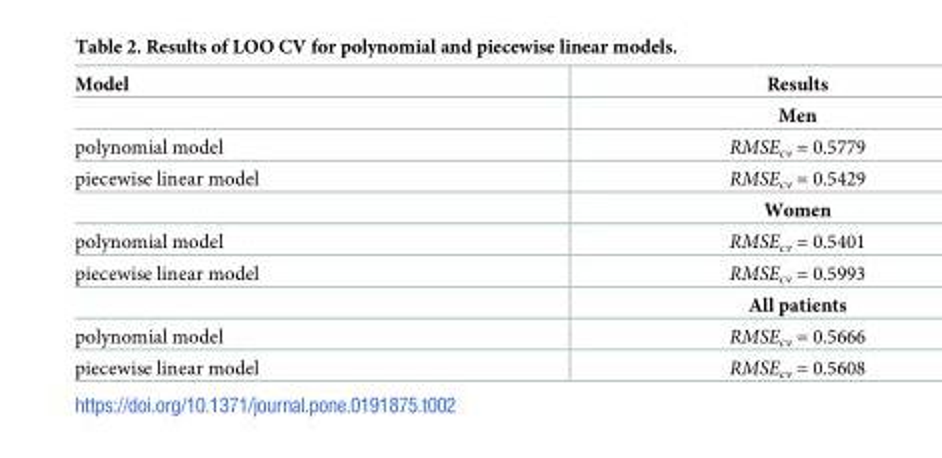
<table><thead><tr><td>Model</td><td>Results</td></tr></thead><tbody><tr><td></td><td>Men</td></tr><tr><td>polynomial model</td><td>RMSE<sub>cv</sub> = 0.5779</td></tr><tr><td rowspan="2">piecewise linear model</td><td>RMSE<sub>cv</sub> = 0.5429</td></tr><tr><td>Women</td></tr><tr><td>polynomial model</td><td>RMSE<sub>cv</sub> = 0.5401</td></tr><tr><td rowspan="2">piecewise linear model</td><td>RMSE<sub>cv</sub> = 0.5993</td></tr><tr><td>All patients</td></tr><tr><td>polynomial model</td><td>RMSE<sub>cv</sub> = 0.5666</td></tr><tr><td>piecewise linear model</td><td>RMSE<sub>cv</sub> = 0.5608</td></tr></tbody></table>